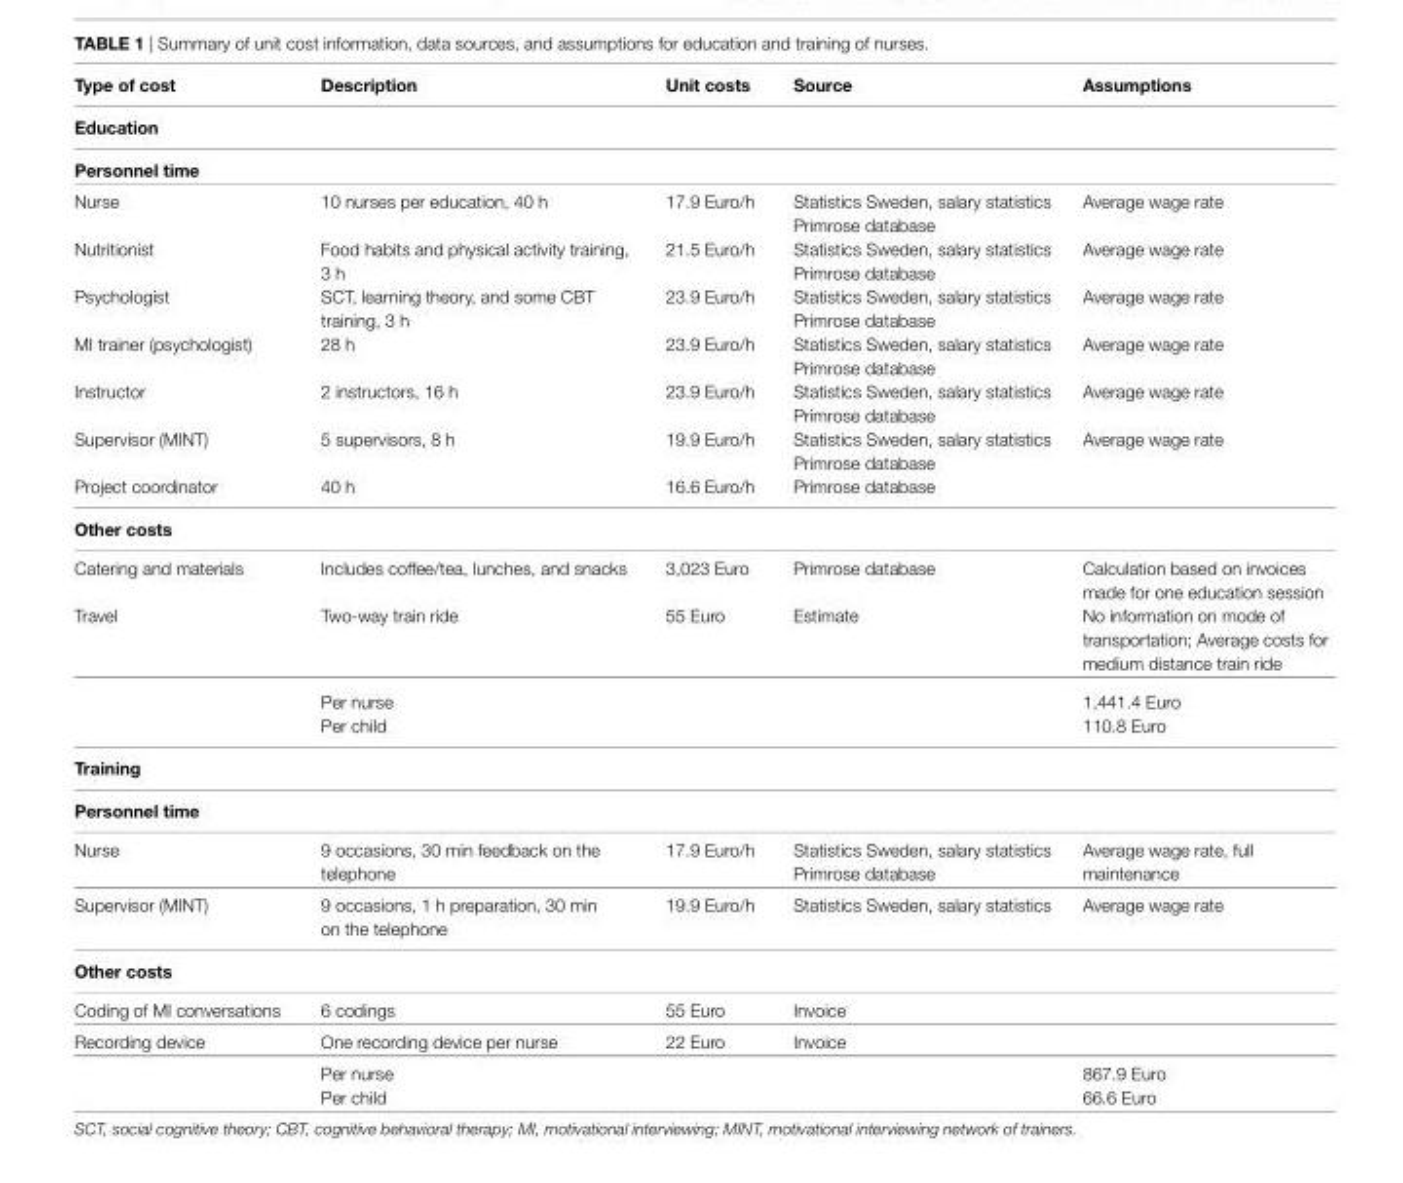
<table><thead><tr><td>Type of cost</td><td>Description</td><td>Unit costs</td><td>source</td><td>assumptions</td></tr></thead><tbody><tr><td colspan="5">education</td></tr><tr><td colspan="5">Personnel time</td></tr><tr><td>Nurse</td><td>10 nurses per education, 40 h</td><td>17.9 Euro/h</td><td>Statistics Sweden, salary statistics Primrose database</td><td>Average wage rate</td></tr><tr><td>Nutritionist</td><td>Food habits and physical activity training, 3 h</td><td>21.5 Euro/h</td><td>Statistics Sweden, salary statistics Primrose database</td><td>Average wage rate</td></tr><tr><td>Psychologist</td><td>SCT, learning theory, and some CBT training, 3 h</td><td>23.9 Euro/h</td><td>Statistics Sweden, salary statistics Primrose database</td><td>Average wage rate</td></tr><tr><td>MI trainer (psychologist)</td><td>28 h</td><td>23.9 Euro/h</td><td>Statistics Sweden, salary statistics Primrose database</td><td>Average wage rate</td></tr><tr><td>Instructor</td><td>2 instructors, 16 h</td><td>23.9 Euro/h</td><td>Statistics Sweden, salary statistics Primrose database</td><td>Average wage rate</td></tr><tr><td>Supervisor (MINT)</td><td>5 supervisors, 8 h</td><td>19.9 Euro/h</td><td>Statistics Sweden, salary statistics Primrose database</td><td>Average wage rate</td></tr><tr><td>Project coordinator</td><td>40 h</td><td>16.6 Euro/h</td><td>Primrose database</td><td></td></tr><tr><td colspan="5">Other costs</td></tr><tr><td>Catering and materials</td><td>Includes coffee/tea, lunches, and snacks</td><td>3,023 Euro</td><td>Primrose database</td><td>Calculation based on invoices made for one education session</td></tr><tr><td rowspan="3">Travel</td><td>Two-way train ride</td><td>55 Euro</td><td>Estimate</td><td>No information on mode of transportation; Average costs for medium distance train ride</td></tr><tr><td>Per nurse</td><td></td><td></td><td>1,441.4 Euro</td></tr><tr><td>Per child</td><td></td><td></td><td>110.8 Euro</td></tr><tr><td colspan="5">Training</td></tr><tr><td colspan="5">Personnel time</td></tr><tr><td>Nurse</td><td>9 occasions, 30 min feedback on the telephone</td><td>17.9 Euro/h</td><td>Statistics Sweden, salary statistics Primrose database</td><td>Average wage rate, full maintenance</td></tr><tr><td>Supervisor (MINT)</td><td>9 occasions, 1 h preparation, 30 min on the telephone</td><td>19.9 Euro/h</td><td>Statistics Sweden, salary statistics</td><td>Average wage rate</td></tr><tr><td colspan="5">Other costs</td></tr><tr><td>Coding of MI conversations</td><td>6 codings</td><td>55 Euro</td><td>Invoice</td><td></td></tr><tr><td rowspan="3">Recording device</td><td>One recording device per nurse</td><td>22 Euro</td><td>Invoice</td><td></td></tr><tr><td>Per nurse</td><td></td><td></td><td>867.9 Euro</td></tr><tr><td>Per child</td><td></td><td></td><td>66.6 Euro</td></tr></tbody></table>